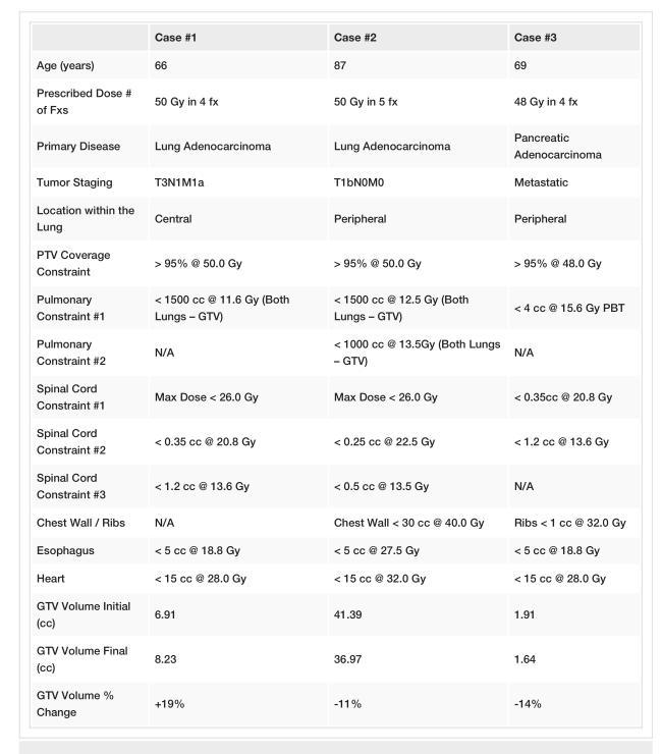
<table><thead><tr><td></td><td>Case #1</td><td>Case #2</td><td>Case #3</td></tr></thead><tbody><tr><td>Age (years)</td><td>66</td><td>87</td><td>69</td></tr><tr><td>Prescribed Dose # of Fxs</td><td>50 Gy in 4 fx</td><td>50 Gy in 5 fx</td><td>48 Gy in 4 fx</td></tr><tr><td>Primary Disease</td><td>Lung Adenocarcinoma</td><td>Lung Adenocarcinoma</td><td>Pancreatic Adenocarcinoma</td></tr><tr><td>Tumor Staging</td><td>T3N1M1a</td><td>T1bN0M0</td><td>Metastatic</td></tr><tr><td>Location within the Lung</td><td>Central</td><td>Peripheral</td><td>Peripheral</td></tr><tr><td>PTV Coverage Constraint</td><td>&gt; 95% @ 50.0 Gy</td><td>&gt; 95% @ 50.0 Gy</td><td>&gt; 95% @ 48.0 Gy</td></tr><tr><td>Pulmonary Constraint #1</td><td>&lt; 1500 cc @ 11.6 Gy (Both Lungs – GTV)</td><td>&lt; 1500 cc @ 12.5 Gy (Both Lungs – GTV)</td><td>&lt; 4 cc @ 15.6 Gy PBT</td></tr><tr><td>Pulmonary Constraint #2</td><td>N/A</td><td>&lt; 1000 cc @ 13.5Gy (Both Lungs – GTV)</td><td>N/A</td></tr><tr><td>Spinal Cord Constraint #1</td><td>Max Dose &lt; 26.0 Gy</td><td>Max Dose &lt; 26.0 Gy</td><td>&lt; 0.35cc @ 20.8 Gy</td></tr><tr><td>Spinal Cord Constraint #2</td><td>&lt; 0.35 cc @ 20.8 Gy</td><td>&lt; 0.25 cc @ 22.5 Gy</td><td>&lt; 1.2 cc @ 13.6 Gy</td></tr><tr><td>Spinal Cord Constraint #3</td><td>&lt; 1.2 cc @ 13.6 Gy</td><td>&lt; 0.5 cc @ 13.5 Gy</td><td>N/A</td></tr><tr><td>Chest Wall / Ribs</td><td>N/A</td><td>Chest Wall &lt; 30 cc @ 40.0 Gy</td><td>Ribs &lt; 1 cc @ 32.0 Gy</td></tr><tr><td>Esophagus</td><td>&lt; 5 cc @ 18.8 Gy</td><td>&lt; 5 cc @ 27.5 Gy</td><td>&lt; 5 cc @ 18.8 Gy</td></tr><tr><td>Heart</td><td>&lt; 15 cc @ 28.0 Gy</td><td>&lt; 15 cc @ 32.0 Gy</td><td>&lt; 15 cc @ 28.0 Gy</td></tr><tr><td>GTV Volume Initial (cc)</td><td>6.91</td><td>41.39</td><td>1.91</td></tr><tr><td>GTV Volume Final (cc)</td><td>8.23</td><td>36.97</td><td>1.64</td></tr><tr><td>GTV Volume % Change</td><td>+19%</td><td>-11%</td><td>-14%</td></tr></tbody></table>